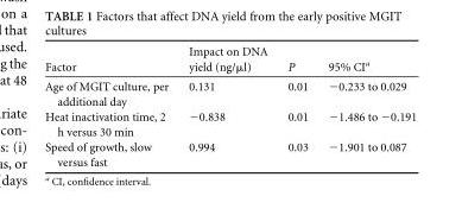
<table><thead><tr><td>Factor</td><td>Impact on DNA yield (ng/μl)</td><td>P</td><td>95% CI<sup>a</sup></td></tr></thead><tbody><tr><td>Age of MGIT culture, per additional day</td><td>0.131</td><td>0.01</td><td>−0.233 to 0.029</td></tr><tr><td>Heat inactivation time, 2 h versus 30 min</td><td>−0.838</td><td>0.01</td><td>−1.486 to −0.191</td></tr><tr><td>Speed of growth, slow versus fast</td><td>0.994</td><td>0.03</td><td>−1.901 to 0.087</td></tr></tbody></table>